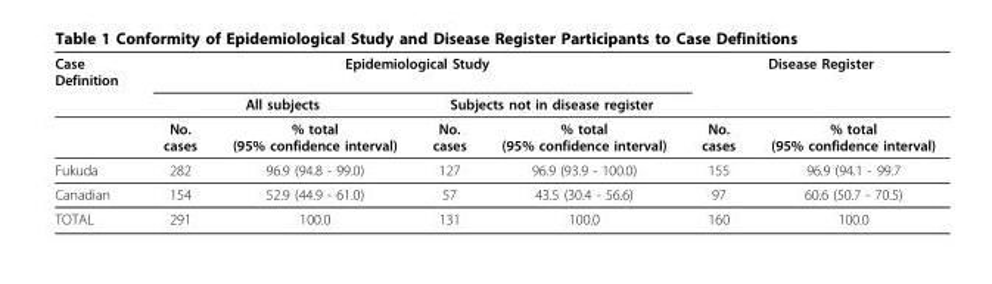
<table><thead><tr><td rowspan="3">Case Definition</td><td colspan="4">Epidemiological Study</td><td colspan="2">Disease Register</td></tr><tr><td colspan="2">All subjects</td><td colspan="2">Subjects not in disease register</td><td rowspan="2">No. cases</td><td rowspan="2">% total (95% confidence interval)</td></tr><tr><td>No. cases</td><td>% total (95% confidence interval)</td><td>No. cases</td><td>% total (95% confidence interval)</td></tr></thead><tbody><tr><td>Fukuda</td><td>282</td><td>96.9 (94.8 - 99.0)</td><td>127</td><td>96.9 (93.9 - 100.0)</td><td>155</td><td>96.9 (94.1 - 99.7</td></tr><tr><td>Canadian</td><td>154</td><td>52.9 (44.9 - 61.0)</td><td>57</td><td>43.5 (30.4 - 56.6)</td><td>97</td><td>60.6 (50.7 - 70.5)</td></tr><tr><td>TOTAL</td><td>291</td><td>100.0</td><td>131</td><td>100.0</td><td>160</td><td>100.0</td></tr></tbody></table>